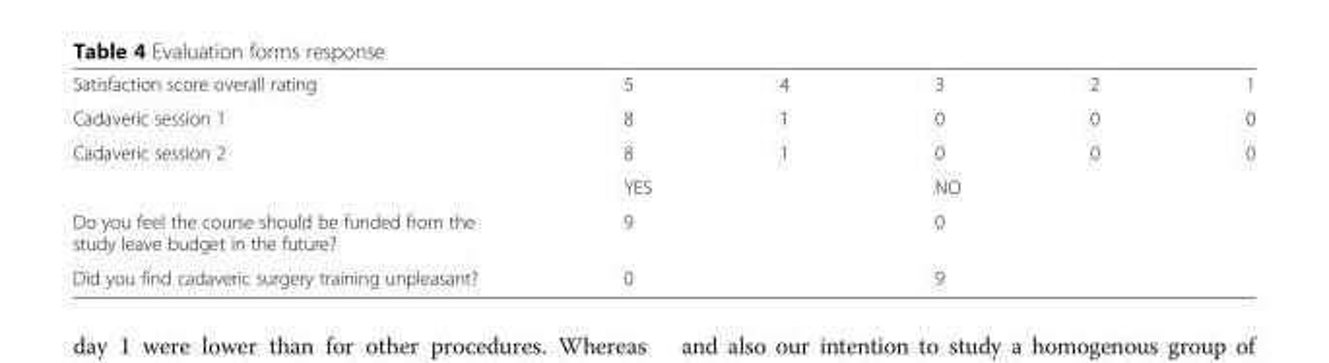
<table><tbody><tr><td>Satisfaction score overall rating</td><td>5</td><td>4</td><td>3</td><td>2</td><td>1</td></tr><tr><td>Cadaveric session 1</td><td>8</td><td>1</td><td>0</td><td>0</td><td>0</td></tr><tr><td rowspan="2">Cadaveric session 2</td><td>8</td><td>1</td><td>0</td><td>0</td><td>0</td></tr><tr><td colspan="2">YES</td><td colspan="3">NO</td></tr><tr><td>Do you feel the course should be funded from the study leave budget in the future?</td><td colspan="2">9</td><td colspan="3">0</td></tr><tr><td>Did you find cadaveric surgery training unpleasant?</td><td colspan="2">0</td><td colspan="3">9</td></tr></tbody></table>